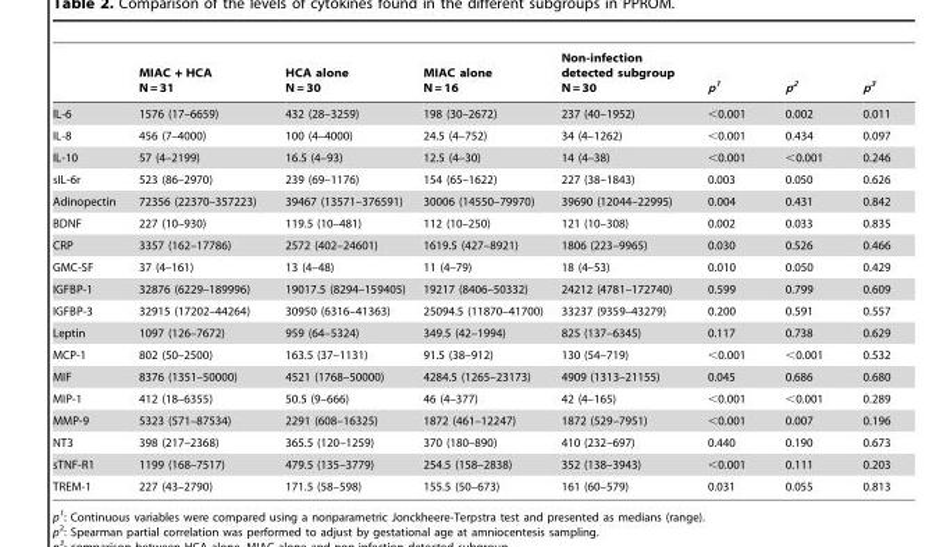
<table><thead><tr><td></td><td>MIAC + HCA N = 31</td><td>HCA alone N = 30</td><td>MIAC alone N = 16</td><td>Non-infection detected subgroup N = 30</td><td>p<sup>1</sup></td><td>p<sup>2</sup></td><td>p<sup>3</sup></td></tr></thead><tbody><tr><td>IL-6</td><td>1576 (17–6659)</td><td>432 (28–3259)</td><td>198 (30–2672)</td><td>237 (40–1952)</td><td>&lt;0.001</td><td>0.002</td><td>0.011</td></tr><tr><td>IL-8</td><td>456 (7–4000)</td><td>100 (4–4000)</td><td>24.5 (4–752)</td><td>34 (4–1262)</td><td>&lt;0.001</td><td>0.434</td><td>0.097</td></tr><tr><td>IL-10</td><td>57 (4–2199)</td><td>16.5 (4–93)</td><td>12.5 (4–30)</td><td>14 (4–38)</td><td>&lt;0.001</td><td>&lt;0.001</td><td>0.246</td></tr><tr><td>sIL-6r</td><td>523 (86–2970)</td><td>239 (69–1176)</td><td>154 (65–1622)</td><td>227 (38–1843)</td><td>0.003</td><td>0.050</td><td>0.626</td></tr><tr><td>Adinopectin</td><td>72356 (22370–357223)</td><td>39467 (13571–376591)</td><td>30006 (14550–79970)</td><td>39690 (12044–22995)</td><td>0.004</td><td>0.431</td><td>0.842</td></tr><tr><td>BDNF</td><td>227 (10–930)</td><td>119.5 (10–481)</td><td>112 (10–250)</td><td>121 (10–308)</td><td>0.002</td><td>0.033</td><td>0.835</td></tr><tr><td>CRP</td><td>3357 (162–17786)</td><td>2572 (402–24601)</td><td>1619.5 (427–8921)</td><td>1806 (223–9965)</td><td>0.030</td><td>0.526</td><td>0.466</td></tr><tr><td>GMC-SF</td><td>37 (4–161)</td><td>13 (4–48)</td><td>11 (4–79)</td><td>18 (4–53)</td><td>0.010</td><td>0.050</td><td>0.429</td></tr><tr><td>IGFBP-1</td><td>32876 (6229–189996)</td><td>19017.5 (8294–159405)</td><td>19217 (8406–50332)</td><td>24212 (4781–172740)</td><td>0.599</td><td>0.799</td><td>0.609</td></tr><tr><td>IGFBP-3</td><td>32915 (17202–44264)</td><td>30950 (6316–41363)</td><td>25094.5 (11870–41700)</td><td>33237 (9359–43279)</td><td>0.200</td><td>0.591</td><td>0.557</td></tr><tr><td>Leptin</td><td>1097 (126–7672)</td><td>959 (64–5324)</td><td>349.5 (42–1994)</td><td>825 (137–6345)</td><td>0.117</td><td>0.738</td><td>0.629</td></tr><tr><td>MCP-1</td><td>802 (50–2500)</td><td>163.5 (37–1131)</td><td>91.5 (38–912)</td><td>130 (54–719)</td><td>&lt;0.001</td><td>&lt;0.001</td><td>0.532</td></tr><tr><td>MIF</td><td>8376 (1351–50000)</td><td>4521 (1768–50000)</td><td>4284.5 (1265–23173)</td><td>4909 (1313–21155)</td><td>0.045</td><td>0.686</td><td>0.680</td></tr><tr><td>MIP-1</td><td>412 (18–6355)</td><td>50.5 (9–666)</td><td>46 (4–377)</td><td>42 (4–165)</td><td>&lt;0.001</td><td>&lt;0.001</td><td>0.289</td></tr><tr><td>MMP-9</td><td>5323 (571–87534)</td><td>2291 (608–16325)</td><td>1872 (461–12247)</td><td>1872 (529–7951)</td><td>&lt;0.001</td><td>0.007</td><td>0.196</td></tr><tr><td>NT3</td><td>398 (217–2368)</td><td>365.5 (120–1259)</td><td>370 (180–890)</td><td>410 (232–697)</td><td>0.440</td><td>0.190</td><td>0.673</td></tr><tr><td>sTNF-R1</td><td>1199 (168–7517)</td><td>479.5 (135–3779)</td><td>254.5 (158–2838)</td><td>352 (138–3943)</td><td>&lt;0.001</td><td>0.111</td><td>0.203</td></tr><tr><td>TREM-1</td><td>227 (43–2790)</td><td>171.5 (58–598)</td><td>155.5 (50–673)</td><td>161 (60–579)</td><td>0.031</td><td>0.055</td><td>0.813</td></tr></tbody></table>